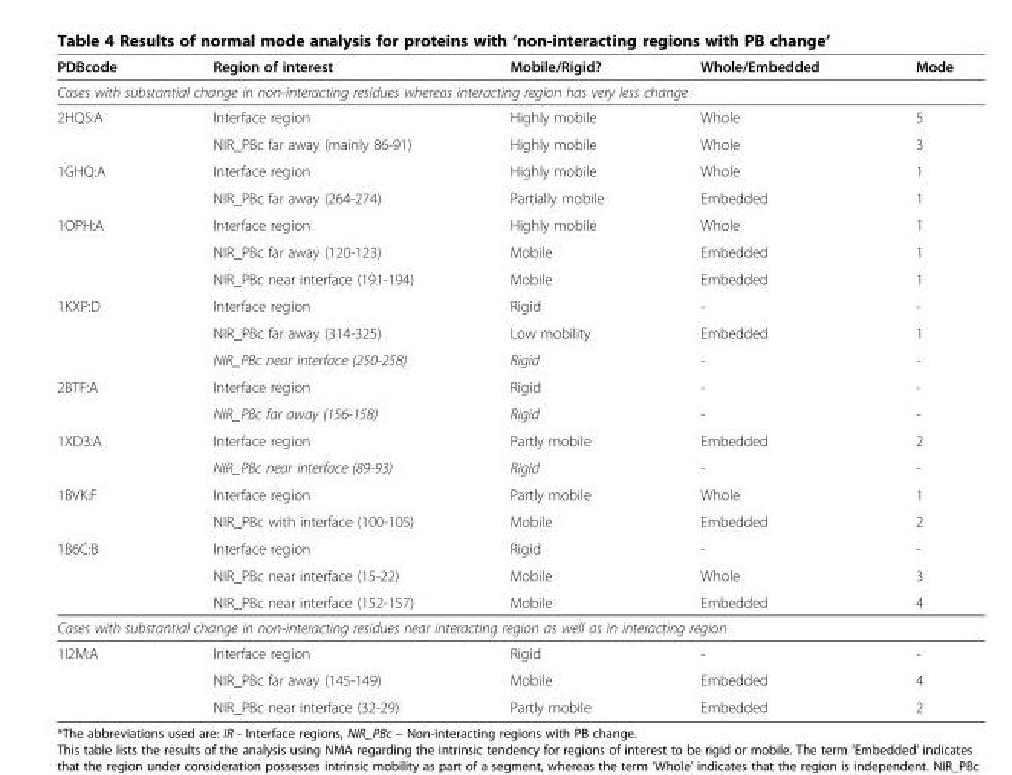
<table><thead><tr><td>PDBcode</td><td>Region of interest</td><td>Mobile/Rigid?</td><td>Whole/Embedded</td><td>Mode</td></tr></thead><tbody><tr><td colspan="5">Cases with substantial change in non-interacting residues whereas interacting region has very less change</td></tr><tr><td rowspan="2">2HQS:A</td><td>Interface region</td><td>Highly mobile</td><td>Whole</td><td>5</td></tr><tr><td>NIR_PBc far away (mainly 86-91)</td><td>Highly mobile</td><td>Whole</td><td>3</td></tr><tr><td rowspan="2">1GHQ:A</td><td>Interface region</td><td>Highly mobile</td><td>Whole</td><td>1</td></tr><tr><td>NIR_PBc far away (264-274)</td><td>Partially mobile</td><td>Embedded</td><td>1</td></tr><tr><td rowspan="3">1OPH:A</td><td>Interface region</td><td>Highly mobile</td><td>Whole</td><td>1</td></tr><tr><td>NIR_PBc far away (120-123)</td><td>Mobile</td><td>Embedded</td><td>1</td></tr><tr><td>NIR_PBc near interface (191-194)</td><td>Mobile</td><td>Embedded</td><td>1</td></tr><tr><td rowspan="3">1KXP:D</td><td>Interface region</td><td>Rigid</td><td>-</td><td>-</td></tr><tr><td>NIR_PBc far away (314-325)</td><td>Low mobility</td><td>Embedded</td><td>1</td></tr><tr><td>NIR_PBc near interface (250-258)</td><td>Rigid</td><td>-</td><td>-</td></tr><tr><td rowspan="2">2BTF:A</td><td>Interface region</td><td>Rigid</td><td>-</td><td>-</td></tr><tr><td>NIR_PBc far away (156-158)</td><td>Rigid</td><td>-</td><td>-</td></tr><tr><td rowspan="2">1XD3:A</td><td>Interface region</td><td>Partly mobile</td><td>Embedded</td><td>2</td></tr><tr><td>NIR_PBc near interface (89-93)</td><td>Rigid</td><td>-</td><td>-</td></tr><tr><td rowspan="2">1BVK:F</td><td>Interface region</td><td>Partly mobile</td><td>Whole</td><td>1</td></tr><tr><td>NIR_PBc with interface (100-105)</td><td>Mobile</td><td>Embedded</td><td>2</td></tr><tr><td rowspan="3">1B6C:B</td><td>Interface region</td><td>Rigid</td><td>-</td><td>-</td></tr><tr><td>NIR_PBc near interface (15-22)</td><td>Mobile</td><td>Whole</td><td>3</td></tr><tr><td>NIR_PBc near interface (152-157)</td><td>Mobile</td><td>Embedded</td><td>4</td></tr><tr><td colspan="5">Cases with substantial change in non-interacting residues near interacting region as well as in interacting region</td></tr><tr><td rowspan="3">1I2M:A</td><td>Interface region</td><td>Rigid</td><td>-</td><td>-</td></tr><tr><td>NIR_PBc far away (145-149)</td><td>Mobile</td><td>Embedded</td><td>4</td></tr><tr><td>NIR_PBc near interface (32-29)</td><td>Partly mobile</td><td>Embedded</td><td>2</td></tr></tbody></table>